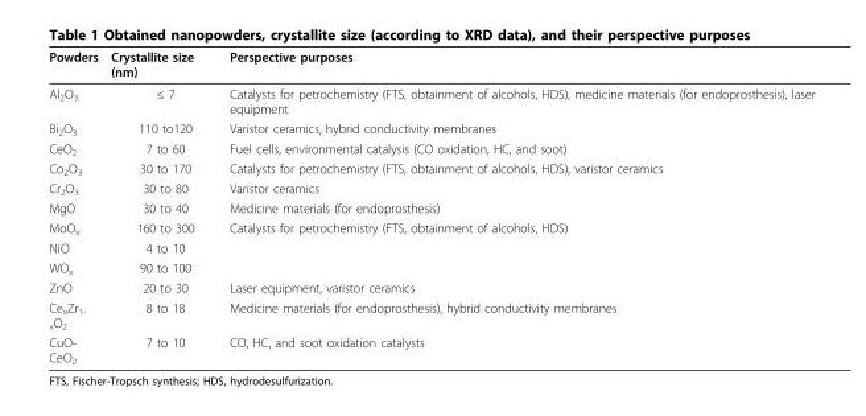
<table><thead><tr><td>Powders</td><td>Crystallite size (nm)</td><td>Perspective purposes</td></tr></thead><tbody><tr><td>Al<sub>2</sub>O<sub>3</sub></td><td>≤ 7</td><td>Catalysts for petrochemistry (FTS, obtainment of alcohols, HDS), medicine materials (for endoprosthesis), laser equipment</td></tr><tr><td>Bi<sub>2</sub>O<sub>3</sub></td><td>110 to120</td><td>Varistor ceramics, hybrid conductivity membranes</td></tr><tr><td>CeO<sub>2</sub></td><td>7 to 60</td><td>Fuel cells, environmental catalysis (CO oxidation, HC, and soot)</td></tr><tr><td>Co<sub>2</sub>O<sub>3</sub></td><td>30 to 170</td><td>Catalysts for petrochemistry (FTS, obtainment of alcohols, HDS), varistor ceramics</td></tr><tr><td>Cr<sub>2</sub>O<sub>3</sub></td><td>30 to 80</td><td>Varistor ceramics</td></tr><tr><td>MgO</td><td>30 to 40</td><td>Medicine materials (for endoprosthesis)</td></tr><tr><td>MoO<sub>x</sub></td><td>160 to 300</td><td>Catalysts for petrochemistry (FTS, obtainment of alcohols, HDS)</td></tr><tr><td>NiO</td><td>4 to 10</td><td></td></tr><tr><td>WO<sub>x</sub></td><td>90 to 100</td><td></td></tr><tr><td>ZnO</td><td>20 to 30</td><td>Laser equipment, varistor ceramics</td></tr><tr><td>Ce<sub>x</sub>Zr<sub>1- x</sub>O<sub>2</sub></td><td>8 to 18</td><td>Medicine materials (for endoprosthesis), hybrid conductivity membranes</td></tr><tr><td>CuO- CeO<sub>2</sub></td><td>7 to 10</td><td>CO, HC, and soot oxidation catalysts</td></tr></tbody></table>